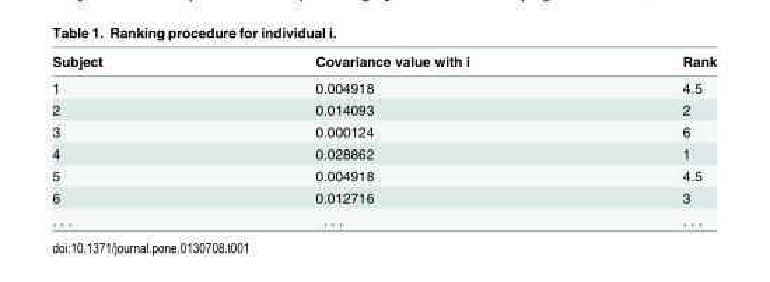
<table><thead><tr><td>Subject</td><td>Covariance value with i</td><td>Rank</td></tr></thead><tbody><tr><td>1</td><td>0.004918</td><td>4.5</td></tr><tr><td>2</td><td>0.014093</td><td>2</td></tr><tr><td>3</td><td>0.000124</td><td>6</td></tr><tr><td>4</td><td>0.028862</td><td>1</td></tr><tr><td>5</td><td>0.004918</td><td>4.5</td></tr><tr><td>6</td><td>0.012716</td><td>3</td></tr><tr><td>. . .</td><td>. . .</td><td>. . .</td></tr></tbody></table>